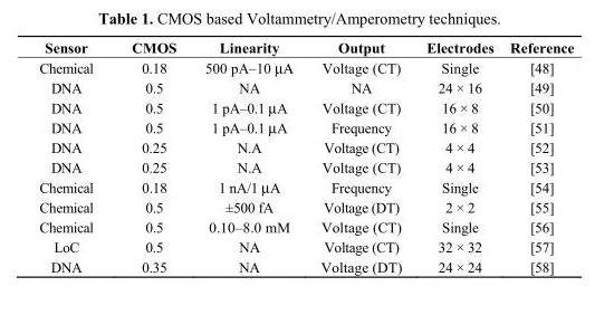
<table><thead><tr><td>Sensor</td><td>CMOS</td><td>Linearity</td><td>Output</td><td>Electrodes</td><td>Reference</td></tr></thead><tbody><tr><td>Chemical</td><td>0.18</td><td>500 pA–10 μΑ</td><td>Voltage (CT)</td><td>Single</td><td>[48]</td></tr><tr><td>DNA</td><td>0.5</td><td>NA</td><td>NA</td><td>24 × 16</td><td>[49]</td></tr><tr><td>DNA</td><td>0.5</td><td>1 pA–0.1 μA</td><td>Voltage (CT)</td><td>16 × 8</td><td>[50]</td></tr><tr><td>DNA</td><td>0.5</td><td>1 pA–0.1 μA</td><td>Frequency</td><td>16 × 8</td><td>[51]</td></tr><tr><td>DNA</td><td>0.25</td><td>N.A</td><td>Voltage (CT)</td><td>4 × 4</td><td>[52]</td></tr><tr><td>DNA</td><td>0.25</td><td>N.A</td><td>Voltage (CT)</td><td>4 × 4</td><td>[53]</td></tr><tr><td>Chemical</td><td>0.18</td><td>1 nA/1 μA</td><td>Frequency</td><td>Single</td><td>[54]</td></tr><tr><td>Chemical</td><td>0.5</td><td>±500 fA</td><td>Voltage (DT)</td><td>2 × 2</td><td>[55]</td></tr><tr><td>Chemical</td><td>0.5</td><td>0.10–8.0 mM</td><td>Voltage (CT)</td><td>Single</td><td>[56]</td></tr><tr><td>LoC</td><td>0.5</td><td>NA</td><td>Voltage (CT)</td><td>32 × 32</td><td>[57]</td></tr><tr><td>DNA</td><td>0.35</td><td>NA</td><td>Voltage (DT)</td><td>24 × 24</td><td>[58]</td></tr></tbody></table>